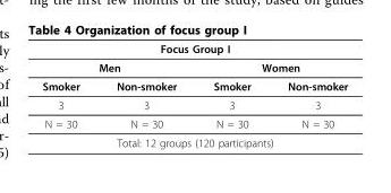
<table><thead><tr><td colspan="4">Focus Group I</td></tr><tr><td colspan="2">Men</td><td colspan="2">Women</td></tr><tr><td>Smoker</td><td>Non-smoker</td><td>Smoker</td><td>Non-smoker</td></tr></thead><tbody><tr><td>3</td><td>3</td><td>3</td><td>3</td></tr><tr><td>N = 30</td><td>N = 30</td><td>N = 30</td><td>N = 30</td></tr><tr><td colspan="4">Total: 12 groups (120 participants)</td></tr></tbody></table>